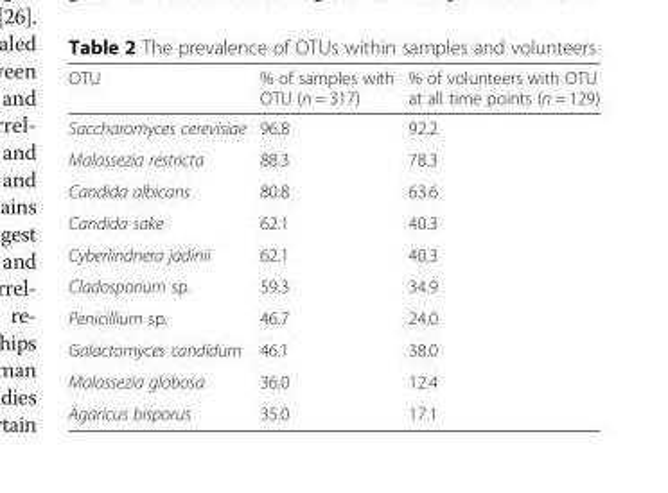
<table><thead><tr><td>OTU</td><td>% of samples with OTU (n = 317)</td><td>% of volunteers with OTU at all time points (n = 129)</td></tr></thead><tbody><tr><td>Saccharomyces cerevisiae</td><td>96.8</td><td>92.2</td></tr><tr><td>Malassezia restricta</td><td>88.3</td><td>78.3</td></tr><tr><td>Candida albicans</td><td>80.8</td><td>63.6</td></tr><tr><td>Candida sake</td><td>62.1</td><td>40.3</td></tr><tr><td>Cyberlindnera jadinii</td><td>62.1</td><td>40.3</td></tr><tr><td>Cladosporium sp.</td><td>59.3</td><td>34.9</td></tr><tr><td>Penicillium sp.</td><td>46.7</td><td>24.0</td></tr><tr><td>Galactomyces candidum</td><td>46.1</td><td>38.0</td></tr><tr><td>Malassezia globosa</td><td>36.0</td><td>12.4</td></tr><tr><td>Agaricus bisporus</td><td>35.0</td><td>17.1</td></tr></tbody></table>